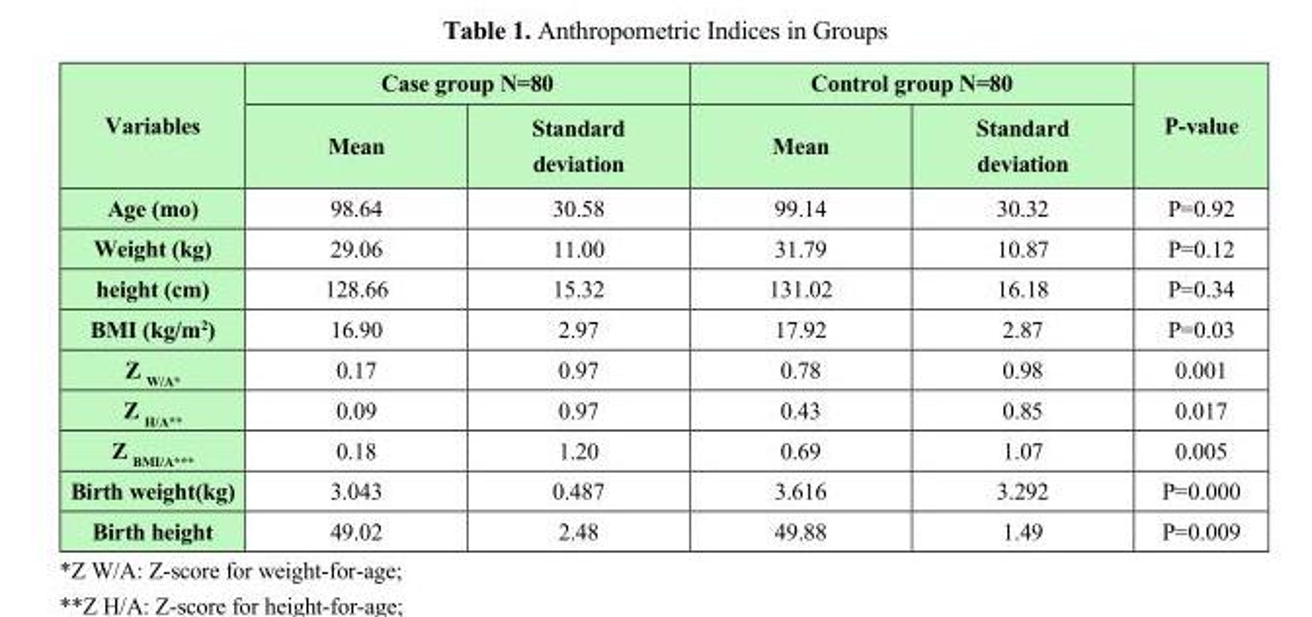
<table><thead><tr><td rowspan="2">Variables</td><td colspan="2">Case group N=80</td><td colspan="2">Control group N=80</td><td rowspan="2">P-value</td></tr><tr><td>Mean</td><td>Standard deviation</td><td>Mean</td><td>Standard deviation</td></tr></thead><tbody><tr><td>Age (mo)</td><td>98.64</td><td>30.58</td><td>99.14</td><td>30.32</td><td>P=0.92</td></tr><tr><td>Weight (kg)</td><td>29.06</td><td>11.00</td><td>31.79</td><td>10.87</td><td>P=0.12</td></tr><tr><td>height (cm)</td><td>128.66</td><td>15.32</td><td>131.02</td><td>16.18</td><td>P=0.34</td></tr><tr><td>BMI (kg/m<sup>2</sup>)</td><td>16.90</td><td>2.97</td><td>17.92</td><td>2.87</td><td>P=0.03</td></tr><tr><td>Z W/A*</td><td>0.17</td><td>0.97</td><td>0.78</td><td>0.98</td><td>0.001</td></tr><tr><td>Z H/A**</td><td>0.09</td><td>0.97</td><td>0.43</td><td>0.85</td><td>0.017</td></tr><tr><td>Z BMI/A***</td><td>0.18</td><td>1.20</td><td>0.69</td><td>1.07</td><td>0.005</td></tr><tr><td>Birth weight(kg)</td><td>3.043</td><td>0.487</td><td>3.616</td><td>3.292</td><td>P=0.000</td></tr><tr><td>Birth height</td><td>49.02</td><td>2.48</td><td>49.88</td><td>1.49</td><td>P=0.009</td></tr></tbody></table>